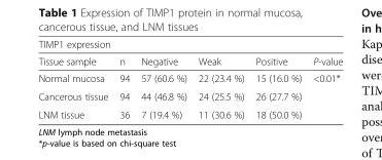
<table><thead><tr><td colspan="6">TIMP1 expression</td></tr><tr><td>Tissue sample</td><td>n</td><td>Negative</td><td>Weak</td><td>Positive</td><td>P-value</td></tr></thead><tbody><tr><td>Normal mucosa</td><td>94</td><td>57 (60.6 %)</td><td>22 (23.4 %)</td><td>15 (16.0 %)</td><td>&lt;0.01*</td></tr><tr><td>Cancerous tissue</td><td>94</td><td>44 (46.8 %)</td><td>24 (25.5 %)</td><td>26 (27.7 %)</td><td></td></tr><tr><td>LNM tissue</td><td>36</td><td>7 (19.4 %)</td><td>11 (30.6 %)</td><td>18 (50.0 %)</td><td></td></tr></tbody></table>